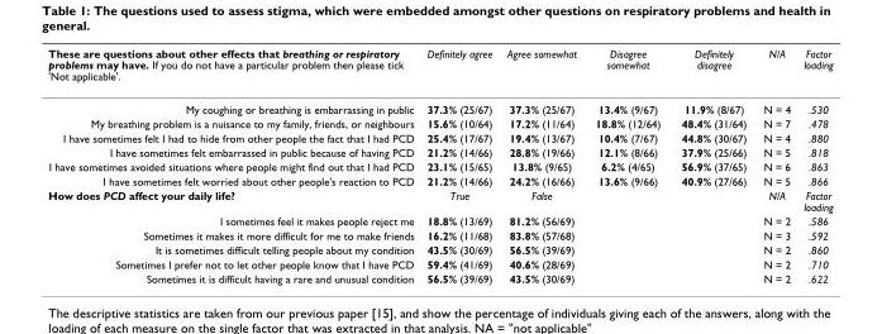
<table><thead><tr><td>These are questions about other effects that breathing or respiratory problems may have. If you do not have a particular problem then please tick &#x27;Not applicable&#x27;.</td><td>Definitely agree</td><td>Agree somewhat</td><td>Disagree somewhat</td><td>Definitely disagree</td><td>N/A</td><td>Factor loading</td></tr></thead><tbody><tr><td>My coughing or breathing is embarrassing in public</td><td>37.3% (25/67)</td><td>37.3% (25/67)</td><td>13.4% (9/67)</td><td>11.9% (8/67)</td><td>N = 4</td><td>.530</td></tr><tr><td>My breathing problem is a nuisance to my family, friends, or neighbours</td><td>15.6% (10/64)</td><td>17.2% (11/64)</td><td>18.8% (12/64)</td><td>48.4% (31/64)</td><td>N = 7</td><td>.478</td></tr><tr><td>I have sometimes felt I had to hide from other people the fact that I had PCD</td><td>25.4% (17/67)</td><td>19.4% (13/67)</td><td>10.4% (7/67)</td><td>44.8% (30/67)</td><td>N = 4</td><td>.880</td></tr><tr><td>I have sometimes felt embarrassed in public because of having PCD</td><td>21.2% (14/66)</td><td>28.8% (19/66)</td><td>12.1% (8/66)</td><td>37.9% (25/66)</td><td>N = 5</td><td>.818</td></tr><tr><td>I have sometimes avoided situations where people might find out that I had PCD</td><td>23.1% (15/65)</td><td>13.8% (9/65)</td><td>6.2% (4/65)</td><td>56.9% (37/65)</td><td>N = 6</td><td>.863</td></tr><tr><td>I have sometimes felt worried about other people&#x27;s reaction to PCD</td><td>21.2% (14/66)</td><td>24.2% (16/66)</td><td>13.6% (9/66)</td><td>40.9% (27/66)</td><td>N = 5</td><td>.866</td></tr><tr><td>How does PCD affect your daily life?</td><td>True</td><td>False</td><td></td><td></td><td>N/A</td><td>Factor loading</td></tr><tr><td>I sometimes feel it makes people reject me</td><td>18.8% (13/69)</td><td>81.2% (56/69)</td><td></td><td></td><td>N = 2</td><td>.586</td></tr><tr><td>Sometimes it makes it more difficult for me to make friends</td><td>16.2% (11/68)</td><td>83.8% (57/68)</td><td></td><td></td><td>N = 3</td><td>.592</td></tr><tr><td>It is sometimes difficult telling people about my condition</td><td>43.5% (30/69)</td><td>56.5% (39/69)</td><td></td><td></td><td>N = 2</td><td>.860</td></tr><tr><td>Sometimes I prefer not to let other people know that I have PCD</td><td>59.4% (41/69)</td><td>40.6% (28/69)</td><td></td><td></td><td>N = 2</td><td>.710</td></tr><tr><td>Sometimes it is difficult having a rare and unusual condition</td><td>56.5% (39/69)</td><td>43.5% (30/69)</td><td></td><td></td><td>N = 2</td><td>.622</td></tr></tbody></table>